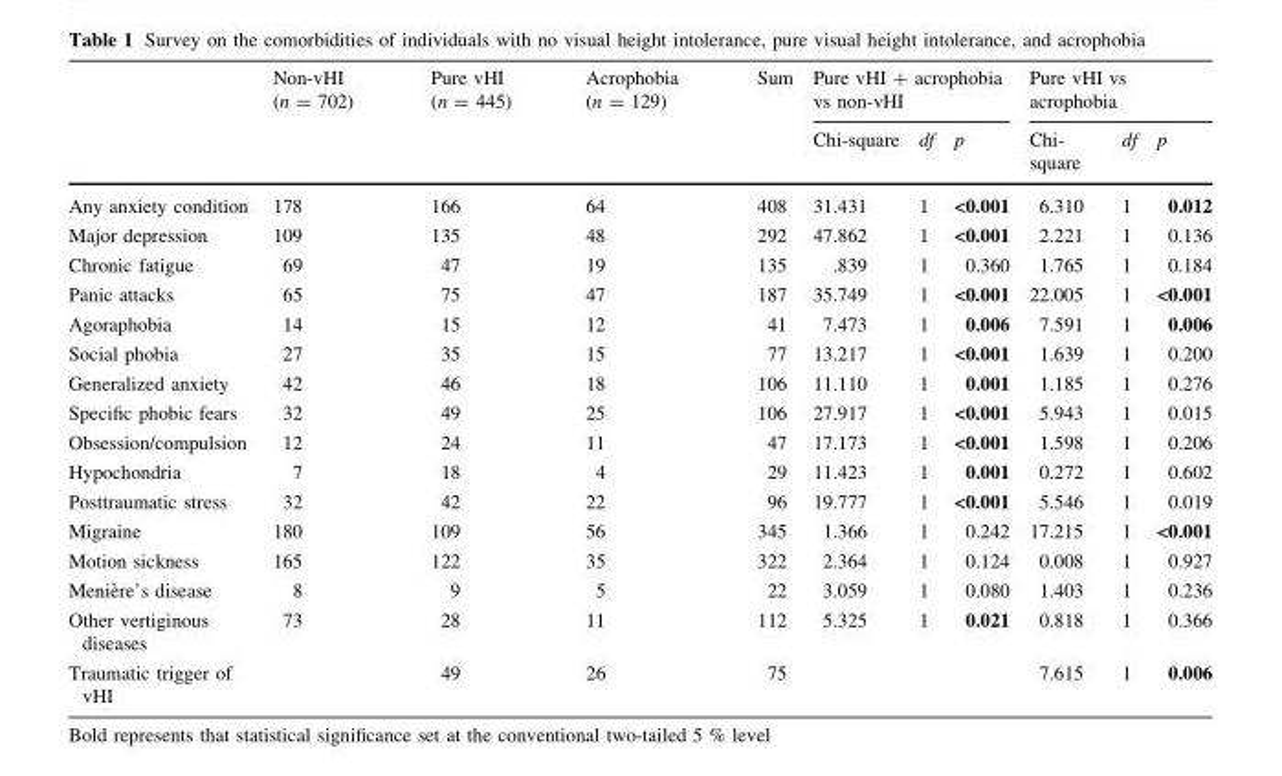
<table><thead><tr><td rowspan="2"></td><td rowspan="2">Non-vHI (n = 702)</td><td rowspan="2">Pure vHI (n = 445)</td><td rowspan="2">Acrophobia (n = 129)</td><td rowspan="2">Sum</td><td colspan="3">Pure vHI + acrophobia vs non-vHI</td><td colspan="3">Pure vHI vs acrophobia</td></tr><tr><td>Chi-square</td><td>df</td><td>p</td><td>Chi- square</td><td>df</td><td>p</td></tr></thead><tbody><tr><td>Any anxiety condition</td><td>178</td><td>166</td><td>64</td><td>408</td><td>31.431</td><td>1</td><td>&lt;0.001</td><td>6.310</td><td>1</td><td>0.012</td></tr><tr><td>Major depression</td><td>109</td><td>135</td><td>48</td><td>292</td><td>47.862</td><td>1</td><td>&lt;0.001</td><td>2.221</td><td>1</td><td>0.136</td></tr><tr><td>Chronic fatigue</td><td>69</td><td>47</td><td>19</td><td>135</td><td>.839</td><td>1</td><td>0.360</td><td>1.765</td><td>1</td><td>0.184</td></tr><tr><td>Panic attacks</td><td>65</td><td>75</td><td>47</td><td>187</td><td>35.749</td><td>1</td><td>&lt;0.001</td><td>22.005</td><td>1</td><td>&lt;0.001</td></tr><tr><td>Agoraphobia</td><td>14</td><td>15</td><td>12</td><td>41</td><td>7.473</td><td>1</td><td>0.006</td><td>7.591</td><td>1</td><td>0.006</td></tr><tr><td>Social phobia</td><td>27</td><td>35</td><td>15</td><td>77</td><td>13.217</td><td>1</td><td>&lt;0.001</td><td>1.639</td><td>1</td><td>0.200</td></tr><tr><td>Generalized anxiety</td><td>42</td><td>46</td><td>18</td><td>106</td><td>11.110</td><td>1</td><td>0.001</td><td>1.185</td><td>1</td><td>0.276</td></tr><tr><td>Specific phobic fears</td><td>32</td><td>49</td><td>25</td><td>106</td><td>27.917</td><td>1</td><td>&lt;0.001</td><td>5.943</td><td>1</td><td>0.015</td></tr><tr><td>Obsession/compulsion</td><td>12</td><td>24</td><td>11</td><td>47</td><td>17.173</td><td>1</td><td>&lt;0.001</td><td>1.598</td><td>1</td><td>0.206</td></tr><tr><td>Hypochondria</td><td>7</td><td>18</td><td>4</td><td>29</td><td>11.423</td><td>1</td><td>0.001</td><td>0.272</td><td>1</td><td>0.602</td></tr><tr><td>Posttraumatic stress</td><td>32</td><td>42</td><td>22</td><td>96</td><td>19.777</td><td>1</td><td>&lt;0.001</td><td>5.546</td><td>1</td><td>0.019</td></tr><tr><td>Migraine</td><td>180</td><td>109</td><td>56</td><td>345</td><td>1.366</td><td>1</td><td>0.242</td><td>17.215</td><td>1</td><td>&lt;0.001</td></tr><tr><td>Motion sickness</td><td>165</td><td>122</td><td>35</td><td>322</td><td>2.364</td><td>1</td><td>0.124</td><td>0.008</td><td>1</td><td>0.927</td></tr><tr><td>Menie`re’s disease</td><td>8</td><td>9</td><td>5</td><td>22</td><td>3.059</td><td>1</td><td>0.080</td><td>1.403</td><td>1</td><td>0.236</td></tr><tr><td>Other vertiginous diseases</td><td>73</td><td>28</td><td>11</td><td>112</td><td>5.325</td><td>1</td><td>0.021</td><td>0.818</td><td>1</td><td>0.366</td></tr><tr><td>Traumatic trigger of vHI</td><td></td><td>49</td><td>26</td><td>75</td><td></td><td></td><td></td><td>7.615</td><td>1</td><td>0.006</td></tr></tbody></table>